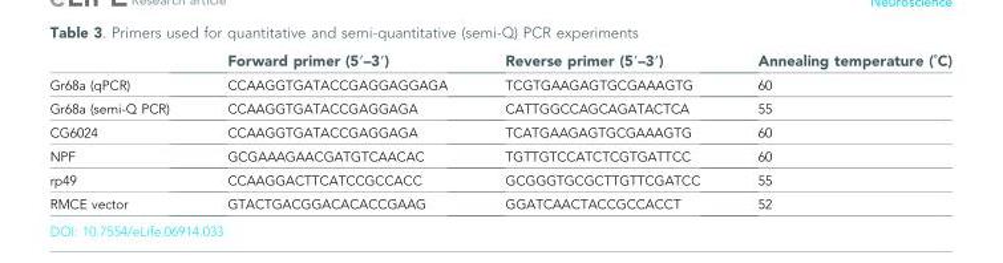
<table><thead><tr><td></td><td>Forward primer (5′–3′)</td><td>Reverse primer (5′–3′)</td><td>Annealing temperature (˚C)</td></tr></thead><tbody><tr><td>Gr68a (qPCR)</td><td>CCAAGGTGATACCGAGGAGGAGA</td><td>TCGTGAAGAGTGCGAAAGTG</td><td>60</td></tr><tr><td>Gr68a (semi-Q PCR)</td><td>CCAAGGTGATACCGAGGAGA</td><td>CATTGGCCAGCAGATACTCA</td><td>55</td></tr><tr><td>CG6024</td><td>CCAAGGTGATACCGAGGAGA</td><td>TCATGAAGAGTGCGAAAGTG</td><td>60</td></tr><tr><td>NPF</td><td>GCGAAAGAACGATGTCAACAC</td><td>TGTTGTCCATCTCGTGATTCC</td><td>60</td></tr><tr><td>rp49</td><td>CCAAGGACTTCATCCGCCACC</td><td>GCGGGTGCGCTTGTTCGATCC</td><td>55</td></tr><tr><td>RMCE vector</td><td>GTACTGACGGACACACCGAAG</td><td>GGATCAACTACCGCCACCT</td><td>52</td></tr></tbody></table>